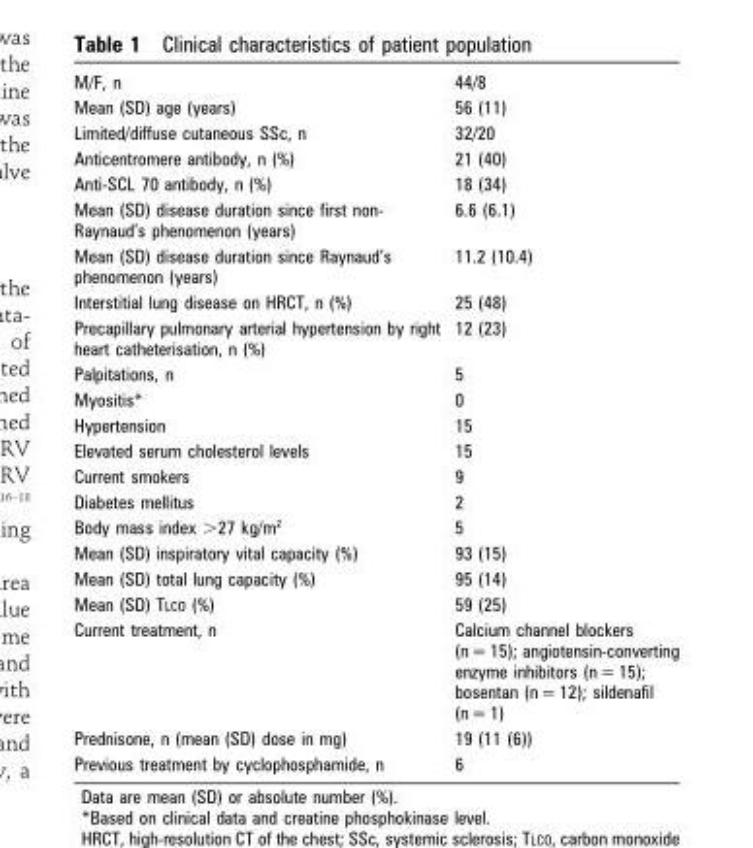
<table><tbody><tr><td>M/F, n</td><td>44/8</td></tr><tr><td>Mean (SD) age (years)</td><td>56 (11)</td></tr><tr><td>Limited/diffuse cutaneous SSc, n</td><td>32/20</td></tr><tr><td>Anticentromere antibody, n (%)</td><td>21 (40)</td></tr><tr><td>Anti-SCL 70 antibody, n (%)</td><td>18 (34)</td></tr><tr><td>Mean (SD) disease duration since first non- Raynaud’s phenomenon (years)</td><td>6.6 (6.1)</td></tr><tr><td>Mean (SD) disease duration since Raynaud’s phenomenon (years)</td><td>11.2 (10.4)</td></tr><tr><td>Interstitial lung disease on HRCT, n (%)</td><td>25 (48)</td></tr><tr><td>Precapillary pulmonary arterial hypertension by right heart catheterisation, n (%)</td><td>12 (23)</td></tr><tr><td>Palpitations, n</td><td>5</td></tr><tr><td>Myositis*</td><td>0</td></tr><tr><td>Hypertension</td><td>15</td></tr><tr><td>Elevated serum cholesterol levels</td><td>15</td></tr><tr><td>Current smokers</td><td>9</td></tr><tr><td>Diabetes mellitus</td><td>2</td></tr><tr><td>Body mass index &gt;27 kg/m<sup>2</sup></td><td>5</td></tr><tr><td>Mean (SD) inspiratory vital capacity (%)</td><td>93 (15)</td></tr><tr><td>Mean (SD) total lung capacity (%)</td><td>95 (14)</td></tr><tr><td>Mean (SD) TLCO (%)</td><td>59 (25)</td></tr><tr><td>Current treatment, n</td><td>Calcium channel blockers (n = 15); angiotensin-converting enzyme inhibitors (n = 15); bosentan (n = 12); sildenafil (n = 1)</td></tr><tr><td>Prednisone, n (mean (SD) dose in mg)</td><td>19 (11 (6))</td></tr><tr><td>Previous treatment by cyclophosphamide, n</td><td>6</td></tr></tbody></table>